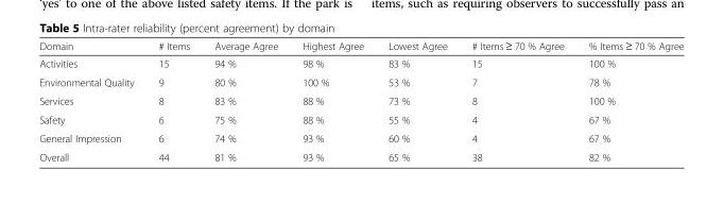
<table><thead><tr><td>Domain</td><td># Items</td><td>Average Agree</td><td>Highest Agree</td><td>Lowest Agree</td><td># Items ≥ 70 % Agree</td><td>% Items ≥ 70 % Agree</td></tr></thead><tbody><tr><td>Activities</td><td>15</td><td>94 %</td><td>98 %</td><td>83 %</td><td>15</td><td>100 %</td></tr><tr><td>Environmental Quality</td><td>9</td><td>80 %</td><td>100 %</td><td>53 %</td><td>7</td><td>78 %</td></tr><tr><td>Services</td><td>8</td><td>83 %</td><td>88 %</td><td>73 %</td><td>8</td><td>100 %</td></tr><tr><td>Safety</td><td>6</td><td>75 %</td><td>88 %</td><td>55 %</td><td>4</td><td>67 %</td></tr><tr><td>General Impression</td><td>6</td><td>74 %</td><td>93 %</td><td>60 %</td><td>4</td><td>67 %</td></tr><tr><td>Overall</td><td>44</td><td>81 %</td><td>93 %</td><td>65 %</td><td>38</td><td>82 %</td></tr></tbody></table>